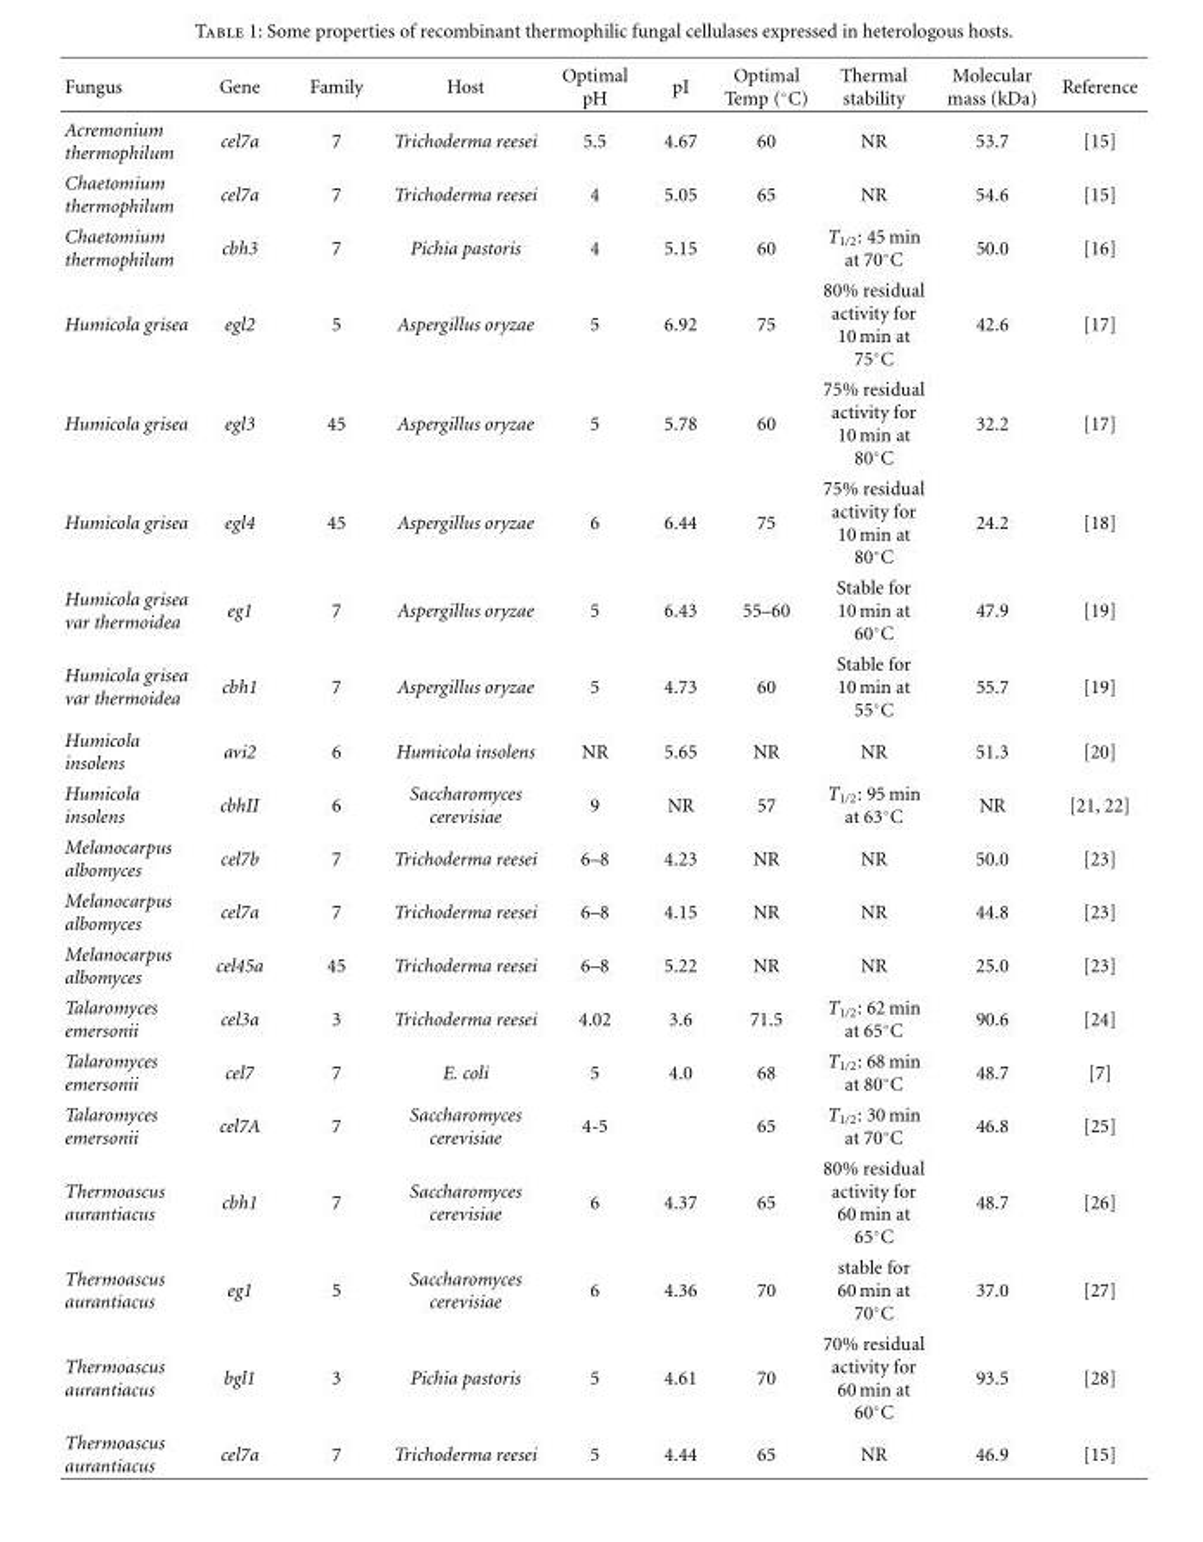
<table><thead><tr><td>Fungus</td><td>Gene</td><td>Family</td><td>Host</td><td>Optimal pH</td><td>pI</td><td>Optimal Temp (◦C)</td><td>Thermal stability</td><td>Molecular mass (kDa)</td><td>Reference</td></tr></thead><tbody><tr><td>Acremonium thermophilum</td><td>cel7a</td><td>7</td><td>Trichoderma reesei</td><td>5.5</td><td>4.67</td><td>60</td><td>NR</td><td>53.7</td><td>[15]</td></tr><tr><td>Chaetomium thermophilum</td><td>cel7a</td><td>7</td><td>Trichoderma reesei</td><td>4</td><td>5.05</td><td>65</td><td>NR</td><td>54.6</td><td>[15]</td></tr><tr><td>Chaetomium thermophilum</td><td>cbh3</td><td>7</td><td>Pichia pastoris</td><td>4</td><td>5.15</td><td>60</td><td>T1/2: 45 min at 70◦C</td><td>50.0</td><td>[16]</td></tr><tr><td>Humicola grisea</td><td>egl2</td><td>5</td><td>Aspergillus oryzae</td><td>5</td><td>6.92</td><td>75</td><td>80% residual activity for 10 min at 75◦C</td><td>42.6</td><td>[17]</td></tr><tr><td>Humicola grisea</td><td>egl3</td><td>45</td><td>Aspergillus oryzae</td><td>5</td><td>5.78</td><td>60</td><td>75% residual activity for 10 min at 80◦C</td><td>32.2</td><td>[17]</td></tr><tr><td>Humicola grisea</td><td>egl4</td><td>45</td><td>Aspergillus oryzae</td><td>6</td><td>6.44</td><td>75</td><td>75% residual activity for 10 min at 80◦C</td><td>24.2</td><td>[18]</td></tr><tr><td>Humicola grisea var thermoidea</td><td>eg1</td><td>7</td><td>Aspergillus oryzae</td><td>5</td><td>6.43</td><td>55–60</td><td>Stable for 10 min at 60◦C</td><td>47.9</td><td>[19]</td></tr><tr><td>Humicola grisea var thermoidea</td><td>cbh1</td><td>7</td><td>Aspergillus oryzae</td><td>5</td><td>4.73</td><td>60</td><td>Stable for 10 min at 55◦C</td><td>55.7</td><td>[19]</td></tr><tr><td>Humicola insolens</td><td>avi2</td><td>6</td><td>Humicola insolens</td><td>NR</td><td>5.65</td><td>NR</td><td>NR</td><td>51.3</td><td>[20]</td></tr><tr><td>Humicola insolens</td><td>cbhII</td><td>6</td><td>Saccharomyces cerevisiae</td><td>9</td><td>NR</td><td>57</td><td>T1/2: 95 min at 63◦C</td><td>NR</td><td>[21, 22]</td></tr><tr><td>Melanocarpus albomyces</td><td>cel7b</td><td>7</td><td>Trichoderma reesei</td><td>6–8</td><td>4.23</td><td>NR</td><td>NR</td><td>50.0</td><td>[23]</td></tr><tr><td>Melanocarpus albomyces</td><td>cel7a</td><td>7</td><td>Trichoderma reesei</td><td>6–8</td><td>4.15</td><td>NR</td><td>NR</td><td>44.8</td><td>[23]</td></tr><tr><td>Melanocarpus albomyces</td><td>cel45a</td><td>45</td><td>Trichoderma reesei</td><td>6–8</td><td>5.22</td><td>NR</td><td>NR</td><td>25.0</td><td>[23]</td></tr><tr><td>Talaromyces emersonii</td><td>cel3a</td><td>3</td><td>Trichoderma reesei</td><td>4.02</td><td>3.6</td><td>71.5</td><td>T1/2: 62 min at 65◦C</td><td>90.6</td><td>[24]</td></tr><tr><td>Talaromyces emersonii</td><td>cel7</td><td>7</td><td>E. coli</td><td>5</td><td>4.0</td><td>68</td><td>T1/2: 68 min at 80◦C</td><td>48.7</td><td>[7]</td></tr><tr><td>Talaromyces emersonii</td><td>cel7A</td><td>7</td><td>Saccharomyces cerevisiae</td><td>4-5</td><td></td><td>65</td><td>T1/2: 30 min at 70◦C</td><td>46.8</td><td>[25]</td></tr><tr><td>Thermoascus aurantiacus</td><td>cbh1</td><td>7</td><td>Saccharomyces cerevisiae</td><td>6</td><td>4.37</td><td>65</td><td>80% residual activity for 60 min at 65◦C</td><td>48.7</td><td>[26]</td></tr><tr><td>Thermoascus aurantiacus</td><td>eg1</td><td>5</td><td>Saccharomyces cerevisiae</td><td>6</td><td>4.36</td><td>70</td><td>stable for 60 min at 70◦C</td><td>37.0</td><td>[27]</td></tr><tr><td>Thermoascus aurantiacus</td><td>bgl1</td><td>3</td><td>Pichia pastoris</td><td>5</td><td>4.61</td><td>70</td><td>70% residual activity for 60 min at 60◦C</td><td>93.5</td><td>[28]</td></tr><tr><td>Thermoascus aurantiacus</td><td>cel7a</td><td>7</td><td>Trichoderma reesei</td><td>5</td><td>4.44</td><td>65</td><td>NR</td><td>46.9</td><td>[15]</td></tr></tbody></table>